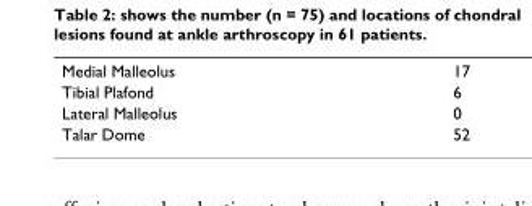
<table><tbody><tr><td>Medial Malleolus</td><td>17</td></tr><tr><td>Tibial Plafond</td><td>6</td></tr><tr><td>Lateral Malleolus</td><td>0</td></tr><tr><td>Talar Dome</td><td>52</td></tr></tbody></table>